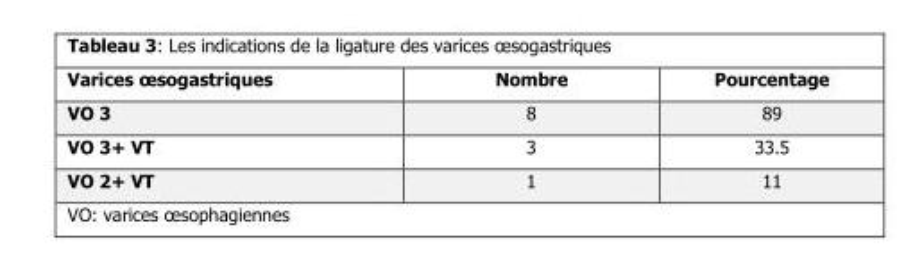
<table><thead><tr><td>Varices œsogastriques</td><td>Nombre</td><td>Pourcentage</td></tr></thead><tbody><tr><td>VO 3</td><td>8</td><td>89</td></tr><tr><td>VO 3+ VT</td><td>3</td><td>33.5</td></tr><tr><td>VO 2+ VT</td><td>1</td><td>11</td></tr></tbody></table>